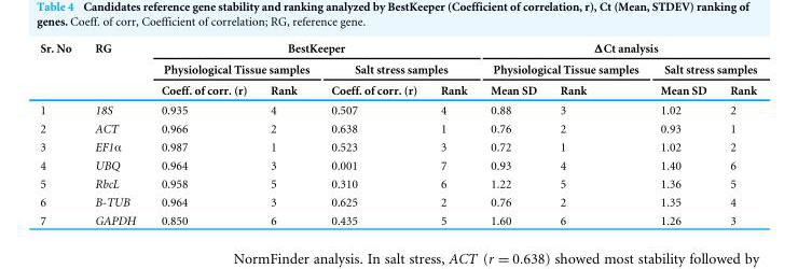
<table><thead><tr><td rowspan="3">Sr. No</td><td rowspan="3">RG</td><td colspan="4">BestKeeper</td><td colspan="4">ΔCt analysis</td></tr><tr><td colspan="2">Physiological Tissue samples</td><td colspan="2">Salt stress samples</td><td colspan="2">Physiological Tissue samples</td><td colspan="2">Salt stress samples</td></tr><tr><td>Coeff. of corr. (r)</td><td>Rank</td><td>Coeff. of corr. (r)</td><td>Rank</td><td>Mean SD</td><td>Rank</td><td>Mean SD</td><td>Rank</td></tr></thead><tbody><tr><td>1</td><td>18S</td><td>0.935</td><td>4</td><td>0.507</td><td>4</td><td>0.88</td><td>3</td><td>1.02</td><td>2</td></tr><tr><td>2</td><td>ACT</td><td>0.966</td><td>2</td><td>0.638</td><td>1</td><td>0.76</td><td>2</td><td>0.93</td><td>1</td></tr><tr><td>3</td><td>EF1α</td><td>0.987</td><td>1</td><td>0.523</td><td>3</td><td>0.72</td><td>1</td><td>1.02</td><td>2</td></tr><tr><td>4</td><td>UBQ</td><td>0.964</td><td>3</td><td>0.001</td><td>7</td><td>0.93</td><td>4</td><td>1.40</td><td>6</td></tr><tr><td>5</td><td>RbcL</td><td>0.958</td><td>5</td><td>0.310</td><td>6</td><td>1.22</td><td>5</td><td>1.36</td><td>5</td></tr><tr><td>6</td><td>B-TUB</td><td>0.964</td><td>3</td><td>0.625</td><td>2</td><td>0.76</td><td>2</td><td>1.35</td><td>4</td></tr><tr><td>7</td><td>GAPDH</td><td>0.850</td><td>6</td><td>0.435</td><td>5</td><td>1.60</td><td>6</td><td>1.26</td><td>3</td></tr></tbody></table>